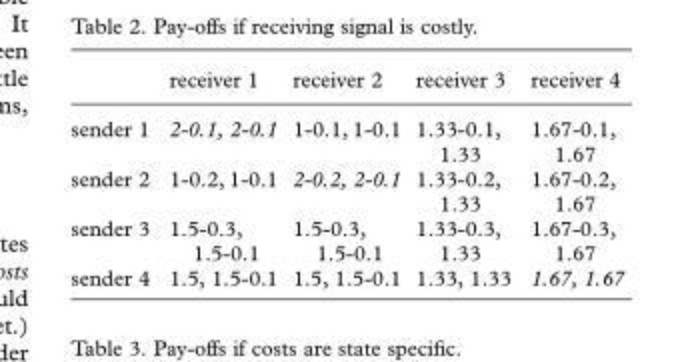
<table><thead><tr><td></td><td>receiver 1</td><td>receiver 2</td><td>receiver 3</td><td>receiver 4</td></tr></thead><tbody><tr><td>sender 1</td><td>2-0.1, 2-0.1</td><td>1-0.1, 1-0.1</td><td>1.33-0.1, 1.33</td><td>1.67-0.1, 1.67</td></tr><tr><td>sender 2</td><td>1-0.2, 1-0.1</td><td>2-0.2, 2-0.1</td><td>1.33-0.2, 1.33</td><td>1.67-0.2, 1.67</td></tr><tr><td>sender 3</td><td>1.5-0.3, 1.5-0.1</td><td>1.5-0.3, 1.5-0.1</td><td>1.33-0.3, 1.33</td><td>1.67-0.3, 1.67</td></tr><tr><td>sender 4</td><td>1.5, 1.5-0.1</td><td>1.5, 1.5-0.1</td><td>1.33, 1.33</td><td>1.67, 1.67</td></tr></tbody></table>